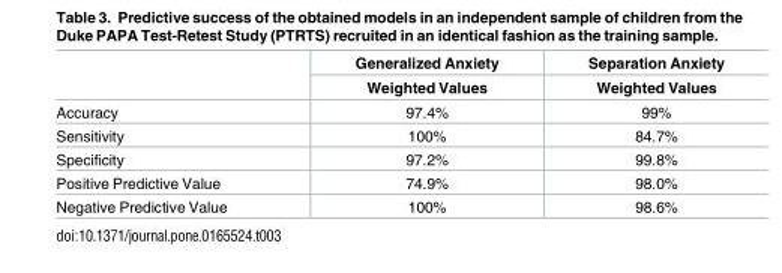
<table><thead><tr><td rowspan="2"></td><td rowspan="2">Generalized Anxiety Weighted Values</td><td rowspan="2">Separation Anxiety Weighted Values</td></tr><tr></tr></thead><tbody><tr><td>Accuracy</td><td>97.4%</td><td>99%</td></tr><tr><td>Sensitivity</td><td>100%</td><td>84.7%</td></tr><tr><td>Specificity</td><td>97.2%</td><td>99.8%</td></tr><tr><td>Positive Predictive Value</td><td>74.9%</td><td>98.0%</td></tr><tr><td>Negative Predictive Value</td><td>100%</td><td>98.6%</td></tr></tbody></table>